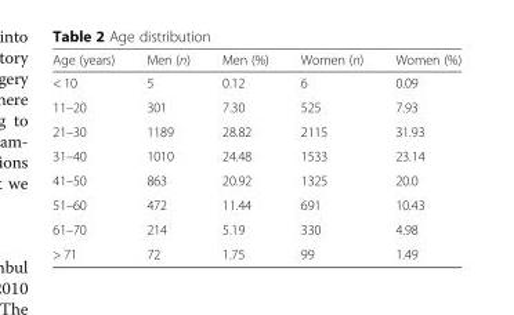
<table><thead><tr><td>Age (years)</td><td>Men (n)</td><td>Men (%)</td><td>Women (n)</td><td>Women (%)</td></tr></thead><tbody><tr><td>&lt; 10</td><td>5</td><td>0.12</td><td>6</td><td>0.09</td></tr><tr><td>11–20</td><td>301</td><td>7.30</td><td>525</td><td>7.93</td></tr><tr><td>21–30</td><td>1189</td><td>28.82</td><td>2115</td><td>31.93</td></tr><tr><td>31–40</td><td>1010</td><td>24.48</td><td>1533</td><td>23.14</td></tr><tr><td>41–50</td><td>863</td><td>20.92</td><td>1325</td><td>20.0</td></tr><tr><td>51–60</td><td>472</td><td>11.44</td><td>691</td><td>10.43</td></tr><tr><td>61–70</td><td>214</td><td>5.19</td><td>330</td><td>4.98</td></tr><tr><td>&gt; 71</td><td>72</td><td>1.75</td><td>99</td><td>1.49</td></tr></tbody></table>